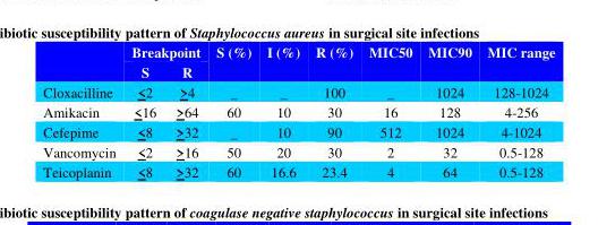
<table><thead><tr><td rowspan="2"></td><td colspan="2">Breakpoint</td><td rowspan="2">S (%)</td><td rowspan="2">I (%)</td><td rowspan="2">R (%)</td><td rowspan="2">MIC50</td><td rowspan="2">MIC90</td><td rowspan="2">MIC range</td></tr><tr><td>S</td><td>R</td></tr></thead><tbody><tr><td>Cloxacilline</td><td>&lt;2</td><td>&gt;4</td><td>_</td><td>_</td><td>100</td><td>_</td><td>1024</td><td>128-1024</td></tr><tr><td>Amikacin</td><td>&lt;16</td><td>&gt;64</td><td>60</td><td>10</td><td>30</td><td>16</td><td>128</td><td>4-256</td></tr><tr><td>Cefepime</td><td>&lt;8</td><td>&gt;32</td><td>_</td><td>10</td><td>90</td><td>512</td><td>1024</td><td>4-1024</td></tr><tr><td>Vancomycin</td><td>&lt;2</td><td>&gt;16</td><td>50</td><td>20</td><td>30</td><td>2</td><td>32</td><td>0.5-128</td></tr><tr><td>Teicoplanin</td><td>&lt;8</td><td>&gt;32</td><td>60</td><td>16.6</td><td>23.4</td><td>4</td><td>64</td><td>0.5-128</td></tr></tbody></table>